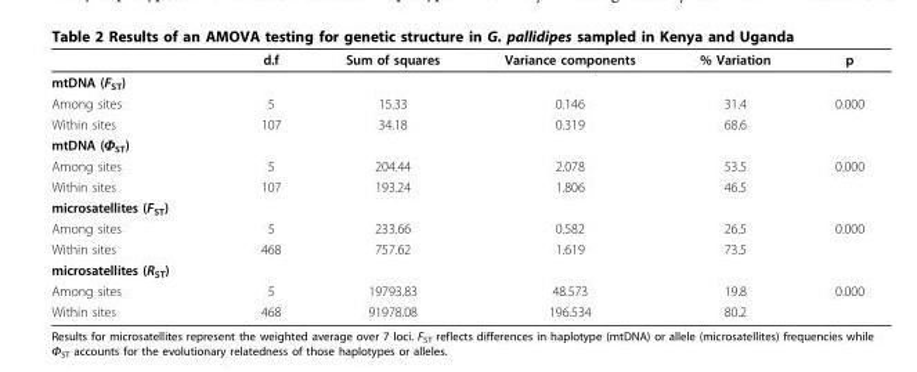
<table><thead><tr><td></td><td>d.f</td><td>Sum of squares</td><td>Variance components</td><td>% Variation</td><td>p</td></tr></thead><tbody><tr><td colspan="6">mtDNA (F<sub>ST</sub>)</td></tr><tr><td>Among sites</td><td>5</td><td>15.33</td><td>0.146</td><td>31.4</td><td>0.000</td></tr><tr><td>Within sites</td><td>107</td><td>34.18</td><td>0.319</td><td>68.6</td><td></td></tr><tr><td colspan="6">mtDNA (Φ<sub>ST</sub>)</td></tr><tr><td>Among sites</td><td>5</td><td>204.44</td><td>2.078</td><td>53.5</td><td>0.000</td></tr><tr><td>Within sites</td><td>107</td><td>193.24</td><td>1.806</td><td>46.5</td><td></td></tr><tr><td colspan="6">microsatellites (F<sub>ST</sub>)</td></tr><tr><td>Among sites</td><td>5</td><td>233.66</td><td>0.582</td><td>26.5</td><td>0.000</td></tr><tr><td>Within sites</td><td>468</td><td>757.62</td><td>1.619</td><td>73.5</td><td></td></tr><tr><td colspan="6">microsatellites (R<sub>ST</sub>)</td></tr><tr><td>Among sites</td><td>5</td><td>19793.83</td><td>48.573</td><td>19.8</td><td>0.000</td></tr><tr><td>Within sites</td><td>468</td><td>91978.08</td><td>196.534</td><td>80.2</td><td></td></tr></tbody></table>